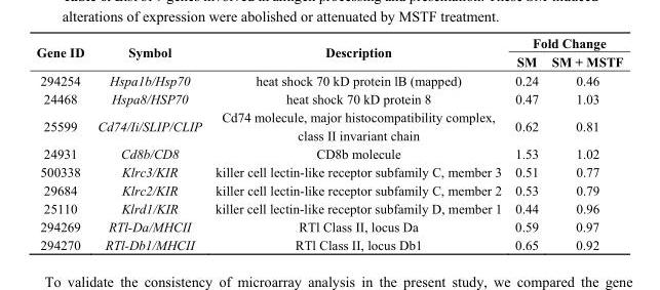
<table><thead><tr><td rowspan="2">Gene ID</td><td rowspan="2">Symbol</td><td rowspan="2">Description</td><td colspan="2">Fold Change</td></tr><tr><td>SM</td><td>SM + MSTF</td></tr></thead><tbody><tr><td>294254</td><td>Hspa1b/Hsp70</td><td>heat shock 70 kD protein lB (mapped)</td><td>0.24</td><td>0.46</td></tr><tr><td>24468</td><td>Hspa8/HSP70</td><td>heat shock 70 kD protein 8</td><td>0.47</td><td>1.03</td></tr><tr><td>25599</td><td>Cd74/Ii/SLIP/CLIP</td><td>Cd74 molecule, major histocompatibility complex, class II invariant chain</td><td>0.62</td><td>0.81</td></tr><tr><td>24931</td><td>Cd8b/CD8</td><td>CD8b molecule</td><td>1.53</td><td>1.02</td></tr><tr><td>500338</td><td>Klrc3/KIR</td><td>killer cell lectin-like receptor subfamily C, member 3</td><td>0.51</td><td>0.77</td></tr><tr><td>29684</td><td>Klrc2/KIR</td><td>killer cell lectin-like receptor subfamily C, member 2</td><td>0.53</td><td>0.79</td></tr><tr><td>25110</td><td>Klrd1/KIR</td><td>killer cell lectin-like receptor subfamily D, member 1</td><td>0.44</td><td>0.96</td></tr><tr><td>294269</td><td>RTl-Da/MHCII</td><td>RTl Class II, locus Da</td><td>0.59</td><td>0.97</td></tr><tr><td>294270</td><td>RTl-Db1/MHCII</td><td>RTl Class II, locus Db1</td><td>0.65</td><td>0.92</td></tr></tbody></table>